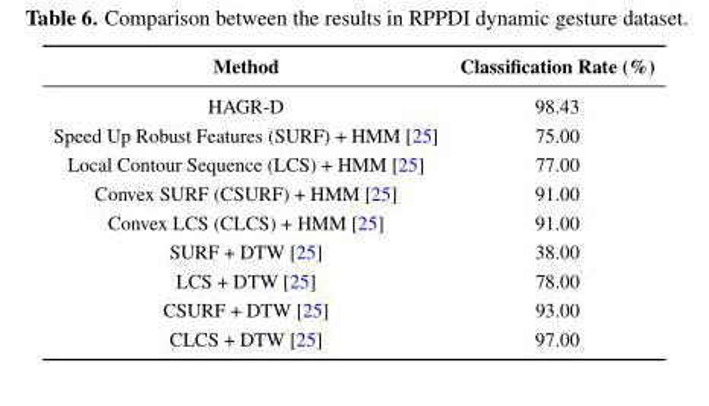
<table><thead><tr><td>Method</td><td>Classification Rate (%)</td></tr></thead><tbody><tr><td>HAGR-D</td><td>98.43</td></tr><tr><td>Speed Up Robust Features (SURF) + HMM [25]</td><td>75.00</td></tr><tr><td>Local Contour Sequence (LCS) + HMM [25]</td><td>77.00</td></tr><tr><td>Convex SURF (CSURF) + HMM [25]</td><td>91.00</td></tr><tr><td>Convex LCS (CLCS) + HMM [25]</td><td>91.00</td></tr><tr><td>SURF + DTW [25]</td><td>38.00</td></tr><tr><td>LCS + DTW [25]</td><td>78.00</td></tr><tr><td>CSURF + DTW [25]</td><td>93.00</td></tr><tr><td>CLCS + DTW [25]</td><td>97.00</td></tr></tbody></table>